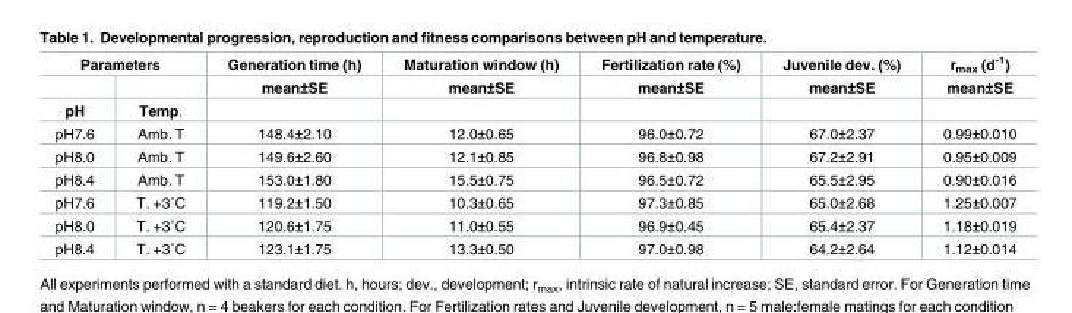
<table><thead><tr><td colspan="2">Parameters</td><td rowspan="2">Generation time (h) mean±SE</td><td rowspan="2">Maturation window (h) mean±SE</td><td rowspan="2">Fertilization rate (%) mean±SE</td><td rowspan="2">Juvenile dev. (%) mean±SE</td><td rowspan="2">r<sub>max</sub> (d<sup>-1</sup>) mean±SE</td></tr><tr><td></td><td></td></tr></thead><tbody><tr><td>pH</td><td>Temp.</td><td></td><td></td><td></td><td></td><td></td></tr><tr><td>pH7.6</td><td>Amb. T</td><td>148.4±2.10</td><td>12.0±0.65</td><td>96.0±0.72</td><td>67.0±2.37</td><td>0.99±0.010</td></tr><tr><td>pH8.0</td><td>Amb. T</td><td>149.6±2.60</td><td>12.1±0.85</td><td>96.8±0.98</td><td>67.2±2.91</td><td>0.95±0.009</td></tr><tr><td>pH8.4</td><td>Amb. T</td><td>153.0±1.80</td><td>15.5±0.75</td><td>96.5±0.72</td><td>65.5±2.95</td><td>0.90±0.016</td></tr><tr><td>pH7.6</td><td>T. +3˚C</td><td>119.2±1.50</td><td>10.3±0.65</td><td>97.3±0.85</td><td>65.0±2.68</td><td>1.25±0.007</td></tr><tr><td>pH8.0</td><td>T. +3˚C</td><td>120.6±1.75</td><td>11.0±0.55</td><td>96.9±0.45</td><td>65.4±2.37</td><td>1.18±0.019</td></tr><tr><td>pH8.4</td><td>T. +3˚C</td><td>123.1±1.75</td><td>13.3±0.50</td><td>97.0±0.98</td><td>64.2±2.64</td><td>1.12±0.014</td></tr></tbody></table>